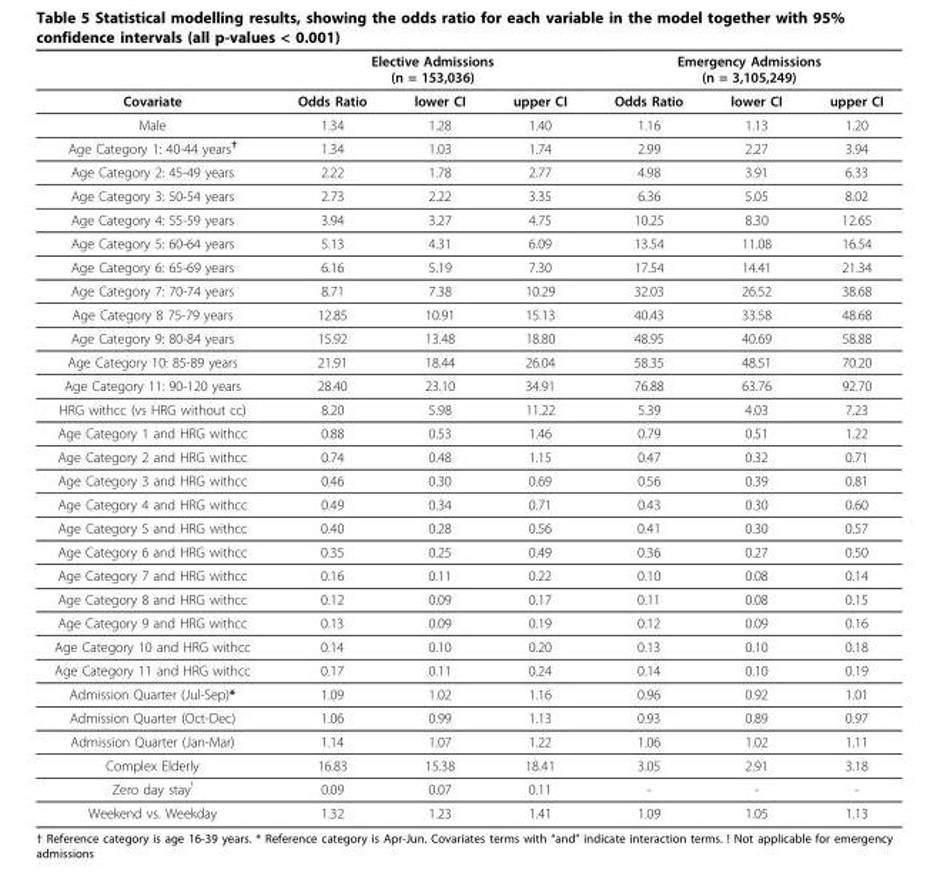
<table><thead><tr><td rowspan="2">Covariate</td><td colspan="3">Elective Admissions (n = 153,036)</td><td colspan="3">Emergency Admissions (n = 3,105,249)</td></tr><tr><td>Odds Ratio</td><td>lower CI</td><td>upper CI</td><td>Odds Ratio</td><td>lower CI</td><td>upper CI</td></tr></thead><tbody><tr><td>Male</td><td>1.34</td><td>1.28</td><td>1.40</td><td>1.16</td><td>1.13</td><td>1.20</td></tr><tr><td>Age Category 1: 40-44 years<sup>†</sup></td><td>1.34</td><td>1.03</td><td>1.74</td><td>2.99</td><td>2.27</td><td>3.94</td></tr><tr><td>Age Category 2: 45-49 years</td><td>2.22</td><td>1.78</td><td>2.77</td><td>4.98</td><td>3.91</td><td>6.33</td></tr><tr><td>Age Category 3: 50-54 years</td><td>2.73</td><td>2.22</td><td>3.35</td><td>6.36</td><td>5.05</td><td>8.02</td></tr><tr><td>Age Category 4: 55-59 years</td><td>3.94</td><td>3.27</td><td>4.75</td><td>10.25</td><td>8.30</td><td>12.65</td></tr><tr><td>Age Category 5: 60-64 years</td><td>5.13</td><td>4.31</td><td>6.09</td><td>13.54</td><td>11.08</td><td>16.54</td></tr><tr><td>Age Category 6: 65-69 years</td><td>6.16</td><td>5.19</td><td>7.30</td><td>17.54</td><td>14.41</td><td>21.34</td></tr><tr><td>Age Category 7: 70-74 years</td><td>8.71</td><td>7.38</td><td>10.29</td><td>32.03</td><td>26.52</td><td>38.68</td></tr><tr><td>Age Category 8 75-79 years</td><td>12.85</td><td>10.91</td><td>15.13</td><td>40.43</td><td>33.58</td><td>48.68</td></tr><tr><td>Age Category 9: 80-84 years</td><td>15.92</td><td>13.48</td><td>18.80</td><td>48.95</td><td>40.69</td><td>58.88</td></tr><tr><td>Age Category 10: 85-89 years</td><td>21.91</td><td>18.44</td><td>26.04</td><td>58.35</td><td>48.51</td><td>70.20</td></tr><tr><td>Age Category 11: 90-120 years</td><td>28.40</td><td>23.10</td><td>34.91</td><td>76.88</td><td>63.76</td><td>92.70</td></tr><tr><td>HRG withcc (vs HRG without cc)</td><td>8.20</td><td>5.98</td><td>11.22</td><td>5.39</td><td>4.03</td><td>7.23</td></tr><tr><td>Age Category 1 and HRG withcc</td><td>0.88</td><td>0.53</td><td>1.46</td><td>0.79</td><td>0.51</td><td>1.22</td></tr><tr><td>Age Category 2 and HRG withcc</td><td>0.74</td><td>0.48</td><td>1.15</td><td>0.47</td><td>0.32</td><td>0.71</td></tr><tr><td>Age Category 3 and HRG withcc</td><td>0.46</td><td>0.30</td><td>0.69</td><td>0.56</td><td>0.39</td><td>0.81</td></tr><tr><td>Age Category 4 and HRG withcc</td><td>0.49</td><td>0.34</td><td>0.71</td><td>0.43</td><td>0.30</td><td>0.60</td></tr><tr><td>Age Category 5 and HRG withcc</td><td>0.40</td><td>0.28</td><td>0.56</td><td>0.41</td><td>0.30</td><td>0.57</td></tr><tr><td>Age Category 6 and HRG withcc</td><td>0.35</td><td>0.25</td><td>0.49</td><td>0.36</td><td>0.27</td><td>0.50</td></tr><tr><td>Age Category 7 and HRG withcc</td><td>0.16</td><td>0.11</td><td>0.22</td><td>0.10</td><td>0.08</td><td>0.14</td></tr><tr><td>Age Category 8 and HRG withcc</td><td>0.12</td><td>0.09</td><td>0.17</td><td>0.11</td><td>0.08</td><td>0.15</td></tr><tr><td>Age Category 9 and HRG withcc</td><td>0.13</td><td>0.09</td><td>0.19</td><td>0.12</td><td>0.09</td><td>0.16</td></tr><tr><td>Age Category 10 and HRG withcc</td><td>0.14</td><td>0.10</td><td>0.20</td><td>0.13</td><td>0.10</td><td>0.18</td></tr><tr><td>Age Category 11 and HRG withcc</td><td>0.17</td><td>0.11</td><td>0.24</td><td>0.14</td><td>0.10</td><td>0.19</td></tr><tr><td>Admission Quarter (Jul-Sep)*</td><td>1.09</td><td>1.02</td><td>1.16</td><td>0.96</td><td>0.92</td><td>1.01</td></tr><tr><td>Admission Quarter (Oct-Dec)</td><td>1.06</td><td>0.99</td><td>1.13</td><td>0.93</td><td>0.89</td><td>0.97</td></tr><tr><td>Admission Quarter (Jan-Mar)</td><td>1.14</td><td>1.07</td><td>1.22</td><td>1.06</td><td>1.02</td><td>1.11</td></tr><tr><td>Complex Elderly</td><td>16.83</td><td>15.38</td><td>18.41</td><td>3.05</td><td>2.91</td><td>3.18</td></tr><tr><td>Zero day stay<sup>!</sup></td><td>0.09</td><td>0.07</td><td>0.11</td><td>-</td><td>-</td><td>-</td></tr><tr><td>Weekend vs. Weekday</td><td>1.32</td><td>1.23</td><td>1.41</td><td>1.09</td><td>1.05</td><td>1.13</td></tr></tbody></table>